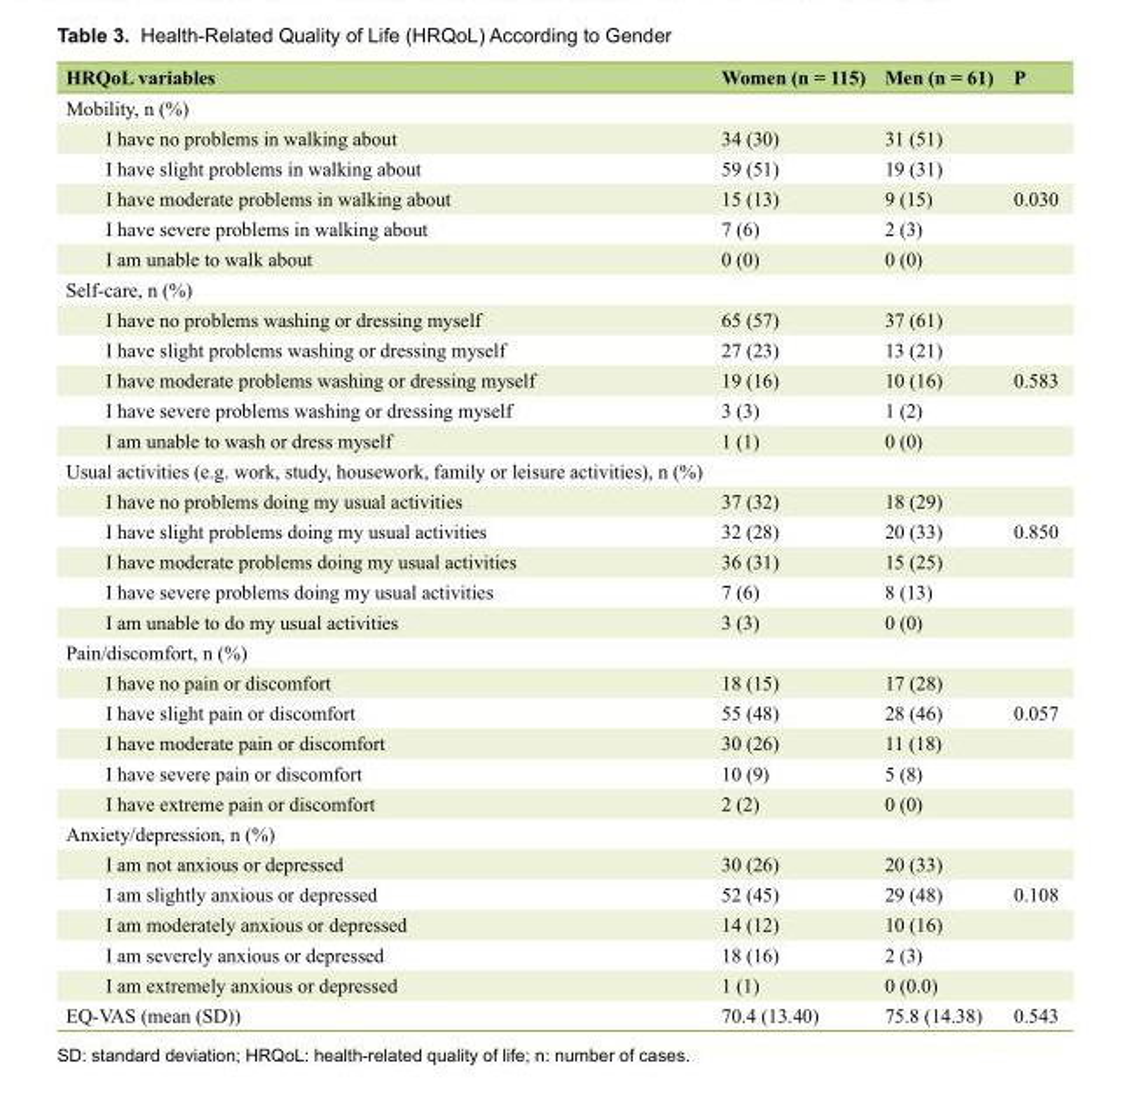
<table><thead><tr><td>HRQoL variables</td><td>Women (n = 115)</td><td>Men (n = 61)</td><td>P</td></tr></thead><tbody><tr><td colspan="4">Mobility, n (%)</td></tr><tr><td>I have no problems in walking about</td><td>34 (30)</td><td>31 (51)</td><td></td></tr><tr><td>I have slight problems in walking about</td><td>59 (51)</td><td>19 (31)</td><td></td></tr><tr><td>I have moderate problems in walking about</td><td>15 (13)</td><td>9 (15)</td><td>0.030</td></tr><tr><td>I have severe problems in walking about</td><td>7 (6)</td><td>2 (3)</td><td></td></tr><tr><td>I am unable to walk about</td><td>0 (0)</td><td>0 (0)</td><td></td></tr><tr><td colspan="4">Self-care, n (%)</td></tr><tr><td>I have no problems washing or dressing myself</td><td>65 (57)</td><td>37 (61)</td><td></td></tr><tr><td>I have slight problems washing or dressing myself</td><td>27 (23)</td><td>13 (21)</td><td></td></tr><tr><td>I have moderate problems washing or dressing myself</td><td>19 (16)</td><td>10 (16)</td><td>0.583</td></tr><tr><td>I have severe problems washing or dressing myself</td><td>3 (3)</td><td>1 (2)</td><td></td></tr><tr><td>I am unable to wash or dress myself</td><td>1 (1)</td><td>0 (0)</td><td></td></tr><tr><td colspan="4">Usual activities (e.g. work, study, housework, family or leisure activities), n (%)</td></tr><tr><td>I have no problems doing my usual activities</td><td>37 (32)</td><td>18 (29)</td><td></td></tr><tr><td>I have slight problems doing my usual activities</td><td>32 (28)</td><td>20 (33)</td><td>0.850</td></tr><tr><td>I have moderate problems doing my usual activities</td><td>36 (31)</td><td>15 (25)</td><td></td></tr><tr><td>I have severe problems doing my usual activities</td><td>7 (6)</td><td>8 (13)</td><td></td></tr><tr><td>I am unable to do my usual activities</td><td>3 (3)</td><td>0 (0)</td><td></td></tr><tr><td colspan="4">Pain/discomfort, n (%)</td></tr><tr><td>I have no pain or discomfort</td><td>18 (15)</td><td>17 (28)</td><td></td></tr><tr><td>I have slight pain or discomfort</td><td>55 (48)</td><td>28 (46)</td><td>0.057</td></tr><tr><td>I have moderate pain or discomfort</td><td>30 (26)</td><td>11 (18)</td><td></td></tr><tr><td>I have severe pain or discomfort</td><td>10 (9)</td><td>5 (8)</td><td></td></tr><tr><td>I have extreme pain or discomfort</td><td>2 (2)</td><td>0 (0)</td><td></td></tr><tr><td colspan="4">Anxiety/depression, n (%)</td></tr><tr><td>I am not anxious or depressed</td><td>30 (26)</td><td>20 (33)</td><td></td></tr><tr><td>I am slightly anxious or depressed</td><td>52 (45)</td><td>29 (48)</td><td>0.108</td></tr><tr><td>I am moderately anxious or depressed</td><td>14 (12)</td><td>10 (16)</td><td></td></tr><tr><td>I am severely anxious or depressed</td><td>18 (16)</td><td>2 (3)</td><td></td></tr><tr><td>I am extremely anxious or depressed</td><td>1 (1)</td><td>0 (0.0)</td><td></td></tr><tr><td>EQ-VAS (mean (SD))</td><td>70.4 (13.40)</td><td>75.8 (14.38)</td><td>0.543</td></tr></tbody></table>